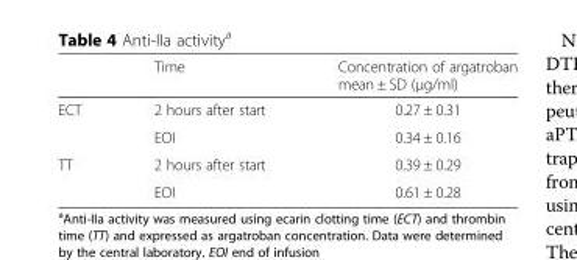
<table><thead><tr><td></td><td>Time</td><td>Concentration of argatroban mean ± SD (μg/ml)</td></tr></thead><tbody><tr><td rowspan="2">ECT</td><td>2 hours after start</td><td>0.27 ± 0.31</td></tr><tr><td>EOI</td><td>0.34 ± 0.16</td></tr><tr><td rowspan="2">TT</td><td>2 hours after start</td><td>0.39 ± 0.29</td></tr><tr><td>EOI</td><td>0.61 ± 0.28</td></tr></tbody></table>